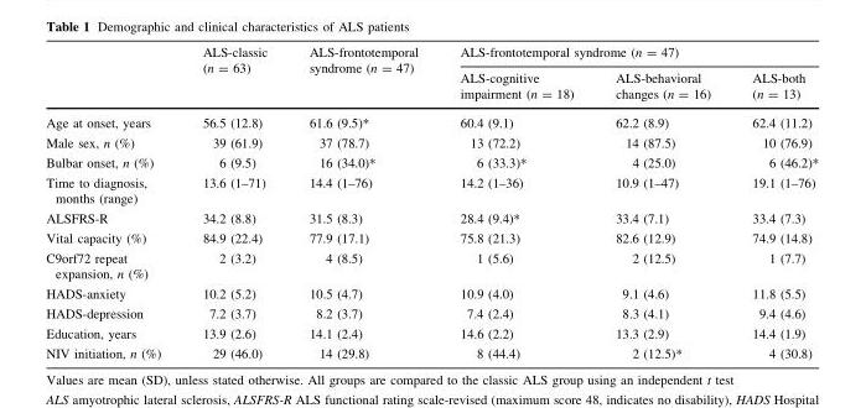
<table><thead><tr><td rowspan="2"></td><td rowspan="2">ALS-classic (n = 63)</td><td rowspan="2">ALS-frontotemporal syndrome (n = 47)</td><td colspan="3">ALS-frontotemporal syndrome (n = 47)</td></tr><tr><td>ALS-cognitive impairment (n = 18)</td><td>ALS-behavioral changes (n = 16)</td><td>ALS-both (n = 13)</td></tr></thead><tbody><tr><td>Age at onset, years</td><td>56.5 (12.8)</td><td>61.6 (9.5)*</td><td>60.4 (9.1)</td><td>62.2 (8.9)</td><td>62.4 (11.2)</td></tr><tr><td>Male sex, n (%)</td><td>39 (61.9)</td><td>37 (78.7)</td><td>13 (72.2)</td><td>14 (87.5)</td><td>10 (76.9)</td></tr><tr><td>Bulbar onset, n (%)</td><td>6 (9.5)</td><td>16 (34.0)*</td><td>6 (33.3)*</td><td>4 (25.0)</td><td>6 (46.2)*</td></tr><tr><td>Time to diagnosis, months (range)</td><td>13.6 (1–71)</td><td>14.4 (1–76)</td><td>14.2 (1–36)</td><td>10.9 (1–47)</td><td>19.1 (1–76)</td></tr><tr><td>ALSFRS-R</td><td>34.2 (8.8)</td><td>31.5 (8.3)</td><td>28.4 (9.4)*</td><td>33.4 (7.1)</td><td>33.4 (7.3)</td></tr><tr><td>Vital capacity (%)</td><td>84.9 (22.4)</td><td>77.9 (17.1)</td><td>75.8 (21.3)</td><td>82.6 (12.9)</td><td>74.9 (14.8)</td></tr><tr><td>C9orf72 repeat expansion, n (%)</td><td>2 (3.2)</td><td>4 (8.5)</td><td>1 (5.6)</td><td>2 (12.5)</td><td>1 (7.7)</td></tr><tr><td>HADS-anxiety</td><td>10.2 (5.2)</td><td>10.5 (4.7)</td><td>10.9 (4.0)</td><td>9.1 (4.6)</td><td>11.8 (5.5)</td></tr><tr><td>HADS-depression</td><td>7.2 (3.7)</td><td>8.2 (3.7)</td><td>7.4 (2.4)</td><td>8.3 (4.1)</td><td>9.4 (4.6)</td></tr><tr><td>Education, years</td><td>13.9 (2.6)</td><td>14.1 (2.4)</td><td>14.6 (2.2)</td><td>13.3 (2.9)</td><td>14.4 (1.9)</td></tr><tr><td>NIV initiation, n (%)</td><td>29 (46.0)</td><td>14 (29.8)</td><td>8 (44.4)</td><td>2 (12.5)*</td><td>4 (30.8)</td></tr></tbody></table>